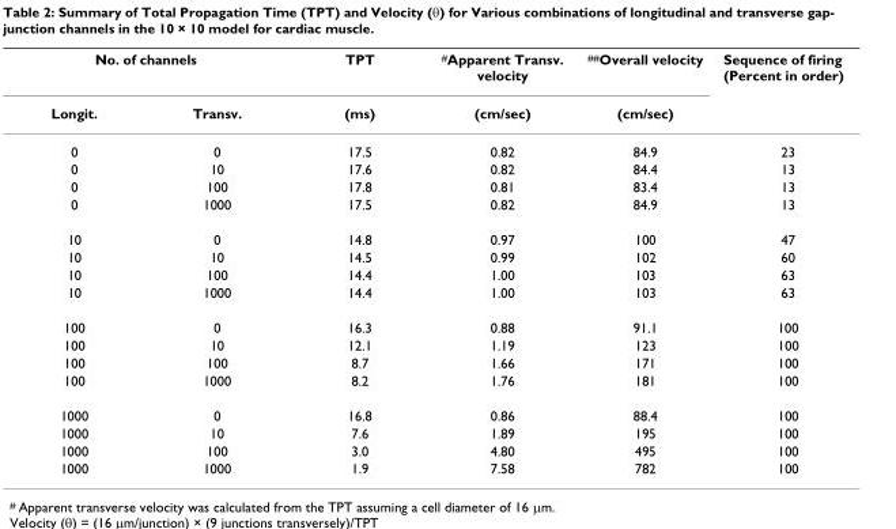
<table><thead><tr><td colspan="2">No. of channels</td><td rowspan="2">TPT (ms)</td><td rowspan="2"><sup>#</sup>Apparent Transv. velocity (cm/sec)</td><td rowspan="2"><sup>##</sup>Overall velocity (cm/sec)</td><td rowspan="2">Sequence of firing (Percent in order)</td></tr><tr><td>Longit.</td><td>Transv.</td></tr></thead><tbody><tr><td>0</td><td>0</td><td>17.5</td><td>0.82</td><td>84.9</td><td>23</td></tr><tr><td>0</td><td>10</td><td>17.6</td><td>0.82</td><td>84.4</td><td>13</td></tr><tr><td>0</td><td>100</td><td>17.8</td><td>0.81</td><td>83.4</td><td>13</td></tr><tr><td>0</td><td>1000</td><td>17.5</td><td>0.82</td><td>84.9</td><td>13</td></tr><tr><td>10</td><td>0</td><td>14.8</td><td>0.97</td><td>100</td><td>47</td></tr><tr><td>10</td><td>10</td><td>14.5</td><td>0.99</td><td>102</td><td>60</td></tr><tr><td>10</td><td>100</td><td>14.4</td><td>1.00</td><td>103</td><td>63</td></tr><tr><td>10</td><td>1000</td><td>14.4</td><td>1.00</td><td>103</td><td>63</td></tr><tr><td>100</td><td>0</td><td>16.3</td><td>0.88</td><td>91.1</td><td>100</td></tr><tr><td>100</td><td>10</td><td>12.1</td><td>1.19</td><td>123</td><td>100</td></tr><tr><td>100</td><td>100</td><td>8.7</td><td>1.66</td><td>171</td><td>100</td></tr><tr><td>100</td><td>1000</td><td>8.2</td><td>1.76</td><td>181</td><td>100</td></tr><tr><td>1000</td><td>0</td><td>16.8</td><td>0.86</td><td>88.4</td><td>100</td></tr><tr><td>1000</td><td>10</td><td>7.6</td><td>1.89</td><td>195</td><td>100</td></tr><tr><td>1000</td><td>100</td><td>3.0</td><td>4.80</td><td>495</td><td>100</td></tr><tr><td>1000</td><td>1000</td><td>1.9</td><td>7.58</td><td>782</td><td>100</td></tr></tbody></table>